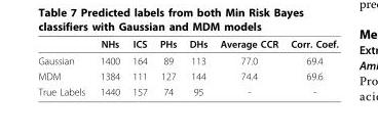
<table><thead><tr><td></td><td>NHs</td><td>ICS</td><td>PHs</td><td>DHs</td><td>Average CCR</td><td>Corr. Coef.</td></tr></thead><tbody><tr><td>Gaussian</td><td>1400</td><td>164</td><td>89</td><td>113</td><td>77.0</td><td>69.4</td></tr><tr><td>MDM</td><td>1384</td><td>111</td><td>127</td><td>144</td><td>74.4</td><td>69.6</td></tr><tr><td>True Labels</td><td>1440</td><td>157</td><td>74</td><td>95</td><td>-</td><td>-</td></tr></tbody></table>